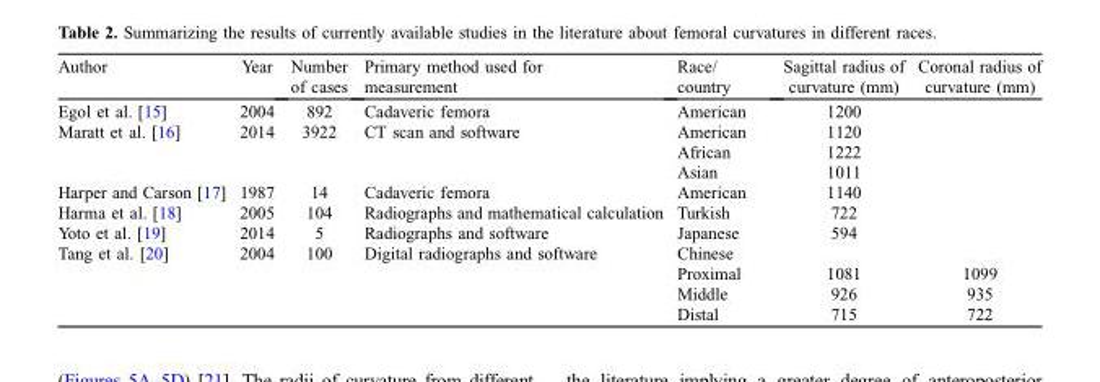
<table><thead><tr><td>Author</td><td>Year</td><td>Number of cases</td><td>Primary method used for measurement</td><td>Race/ country</td><td>Sagittal radius of curvature (mm)</td><td>Coronal radius of curvature (mm)</td></tr></thead><tbody><tr><td>Egol et al. [15]</td><td>2004</td><td>892</td><td>Cadaveric femora</td><td>American</td><td>1200</td><td></td></tr><tr><td rowspan="3">Maratt et al. [16]</td><td>2014</td><td>3922</td><td>CT scan and software</td><td>American</td><td>1120</td><td></td></tr><tr><td></td><td></td><td></td><td>African</td><td>1222</td><td></td></tr><tr><td></td><td></td><td></td><td>Asian</td><td>1011</td><td></td></tr><tr><td>Harper and Carson [17]</td><td>1987</td><td>14</td><td>Cadaveric femora</td><td>American</td><td>1140</td><td></td></tr><tr><td>Harma et al. [18]</td><td>2005</td><td>104</td><td>Radiographs and mathematical calculation</td><td>Turkish</td><td>722</td><td></td></tr><tr><td>Yoto et al. [19]</td><td>2014</td><td>5</td><td>Radiographs and software</td><td>Japanese</td><td>594</td><td></td></tr><tr><td rowspan="4">Tang et al. [20]</td><td>2004</td><td>100</td><td>Digital radiographs and software</td><td>Chinese</td><td></td><td></td></tr><tr><td></td><td></td><td></td><td>Proximal</td><td>1081</td><td>1099</td></tr><tr><td></td><td></td><td></td><td>Middle</td><td>926</td><td>935</td></tr><tr><td></td><td></td><td></td><td>Distal</td><td>715</td><td>722</td></tr></tbody></table>